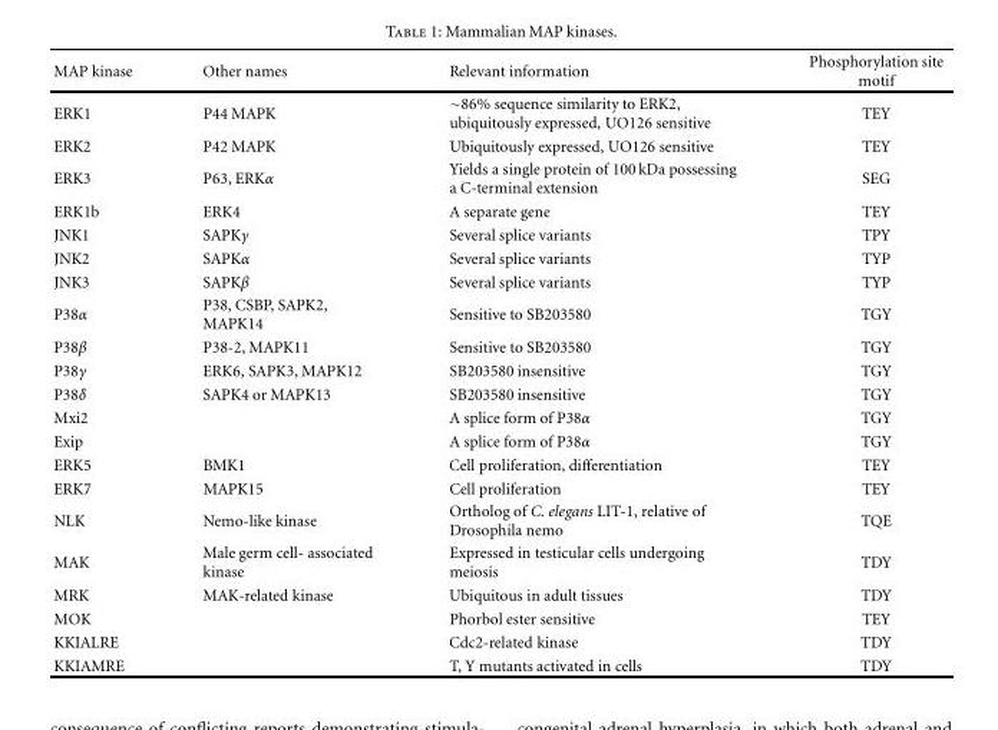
<table><thead><tr><td>MAP kinase</td><td>Other names</td><td>Relevant information</td><td>Phosphorylation site motif</td></tr></thead><tbody><tr><td>ERK1</td><td>P44 MAPK</td><td>∼86% sequence similarity to ERK2, ubiquitously expressed, UO126 sensitive</td><td>TEY</td></tr><tr><td>ERK2</td><td>P42 MAPK</td><td>Ubiquitously expressed, UO126 sensitive</td><td>TEY</td></tr><tr><td>ERK3</td><td>P63, ERKα</td><td>Yields a single protein of 100 kDa possessing a C-terminal extension</td><td>SEG</td></tr><tr><td>ERK1b</td><td>ERK4</td><td>A separate gene</td><td>TEY</td></tr><tr><td>JNK1</td><td>SAPKγ</td><td>Several splice variants</td><td>TPY</td></tr><tr><td>JNK2</td><td>SAPKα</td><td>Several splice variants</td><td>TYP</td></tr><tr><td>JNK3</td><td>SAPKβ</td><td>Several splice variants</td><td>TYP</td></tr><tr><td>P38α</td><td>P38, CSBP, SAPK2, MAPK14</td><td>Sensitive to SB203580</td><td>TGY</td></tr><tr><td>P38β</td><td>P38-2, MAPK11</td><td>Sensitive to SB203580</td><td>TGY</td></tr><tr><td>P38γ</td><td>ERK6, SAPK3, MAPK12</td><td>SB203580 insensitive</td><td>TGY</td></tr><tr><td>P38δ</td><td>SAPK4 or MAPK13</td><td>SB203580 insensitive</td><td>TGY</td></tr><tr><td>Mxi2</td><td></td><td>A splice form of P38α</td><td>TGY</td></tr><tr><td>Exip</td><td></td><td>A splice form of P38α</td><td>TGY</td></tr><tr><td>ERK5</td><td>BMK1</td><td>Cell proliferation, differentiation</td><td>TEY</td></tr><tr><td>ERK7</td><td>MAPK15</td><td>Cell proliferation</td><td>TEY</td></tr><tr><td>NLK</td><td>Nemo-like kinase</td><td>Ortholog of C. elegans LIT-1, relative of Drosophila nemo</td><td>TQE</td></tr><tr><td>MAK</td><td>Male germ cell- associated kinase</td><td>Expressed in testicular cells undergoing meiosis</td><td>TDY</td></tr><tr><td>MRK</td><td>MAK-related kinase</td><td>Ubiquitous in adult tissues</td><td>TDY</td></tr><tr><td>MOK</td><td></td><td>Phorbol ester sensitive</td><td>TEY</td></tr><tr><td>KKIALRE</td><td></td><td>Cdc2-related kinase</td><td>TDY</td></tr><tr><td>KKIAMRE</td><td></td><td>T, Y mutants activated in cells</td><td>TDY</td></tr></tbody></table>